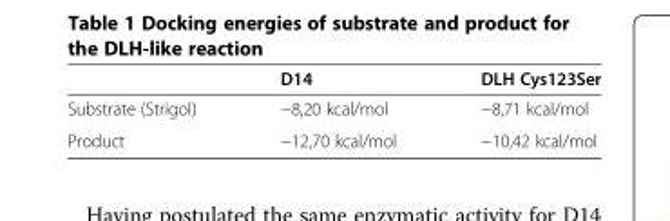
<table><thead><tr><td></td><td>D14</td><td>DLH Cys123Ser</td></tr></thead><tbody><tr><td>Substrate (Strigol)</td><td>−8,20 kcal/mol</td><td>−8,71 kcal/mol</td></tr><tr><td>Product</td><td>−12,70 kcal/mol</td><td>−10,42 kcal/mol</td></tr></tbody></table>